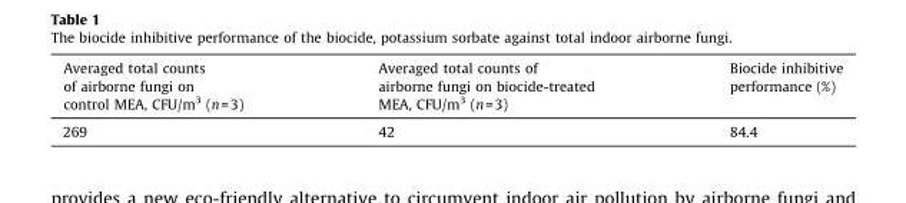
<table><thead><tr><td>Averaged total counts of airborne fungi on control MEA, CFU/m<sup>3</sup> (n=3)</td><td>Averaged total counts of airborne fungi on biocide-treated MEA, CFU/m<sup>3</sup> (n=3)</td><td>Biocide inhibitive performance (%)</td></tr></thead><tbody><tr><td>269</td><td>42</td><td>84.4</td></tr></tbody></table>